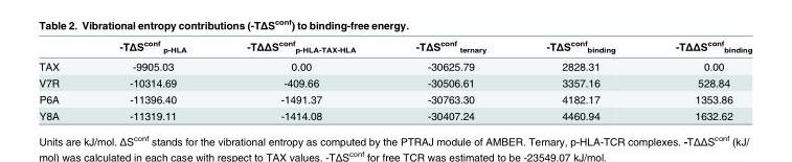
<table><thead><tr><td></td><td>-TΔS<sup>conf</sup> <sub>p-HLA</sub></td><td>-TΔΔS<sup>conf</sup> <sub>p-HLA-TAX-HLA</sub></td><td>-TΔS<sup>conf</sup> <sub>ternary</sub></td><td>-TΔS<sup>conf</sup> <sub>binding</sub></td><td>-TΔΔS<sup>conf</sup> <sub>binding</sub></td></tr></thead><tbody><tr><td>TAX</td><td>-9905.03</td><td>0.00</td><td>-30625.79</td><td>2828.31</td><td>0.00</td></tr><tr><td>V7R</td><td>-10314.69</td><td>-409.66</td><td>-30506.61</td><td>3357.16</td><td>528.84</td></tr><tr><td>P6A</td><td>-11396.40</td><td>-1491.37</td><td>-30763.30</td><td>4182.17</td><td>1353.86</td></tr><tr><td>Y8A</td><td>-11319.11</td><td>-1414.08</td><td>-30407.24</td><td>4460.94</td><td>1632.62</td></tr></tbody></table>